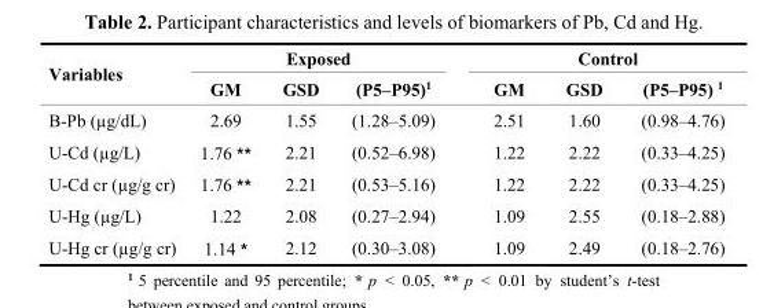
<table><thead><tr><td rowspan="2">Variables</td><td colspan="3">Exposed</td><td colspan="3">Control</td></tr><tr><td>GM</td><td>GSD</td><td>(P5–P95)<sup>1</sup></td><td>GM</td><td>GSD</td><td>(P5–P95) <sup>1</sup></td></tr></thead><tbody><tr><td>B-Pb (µg/dL)</td><td>2.69</td><td>1.55</td><td>(1.28–5.09)</td><td>2.51</td><td>1.60</td><td>(0.98–4.76)</td></tr><tr><td>U-Cd (µg/L)</td><td>1.76 **</td><td>2.21</td><td>(0.52–6.98)</td><td>1.22</td><td>2.22</td><td>(0.33–4.25)</td></tr><tr><td>U-Cd cr (µg/g cr)</td><td>1.76 **</td><td>2.21</td><td>(0.53–5.16)</td><td>1.22</td><td>2.22</td><td>(0.33–4.25)</td></tr><tr><td>U-Hg (µg/L)</td><td>1.22</td><td>2.08</td><td>(0.27–2.94)</td><td>1.09</td><td>2.55</td><td>(0.18–2.88)</td></tr><tr><td>U-Hg cr (µg/g cr)</td><td>1.14 *</td><td>2.12</td><td>(0.30–3.08)</td><td>1.09</td><td>2.49</td><td>(0.18–2.76)</td></tr></tbody></table>